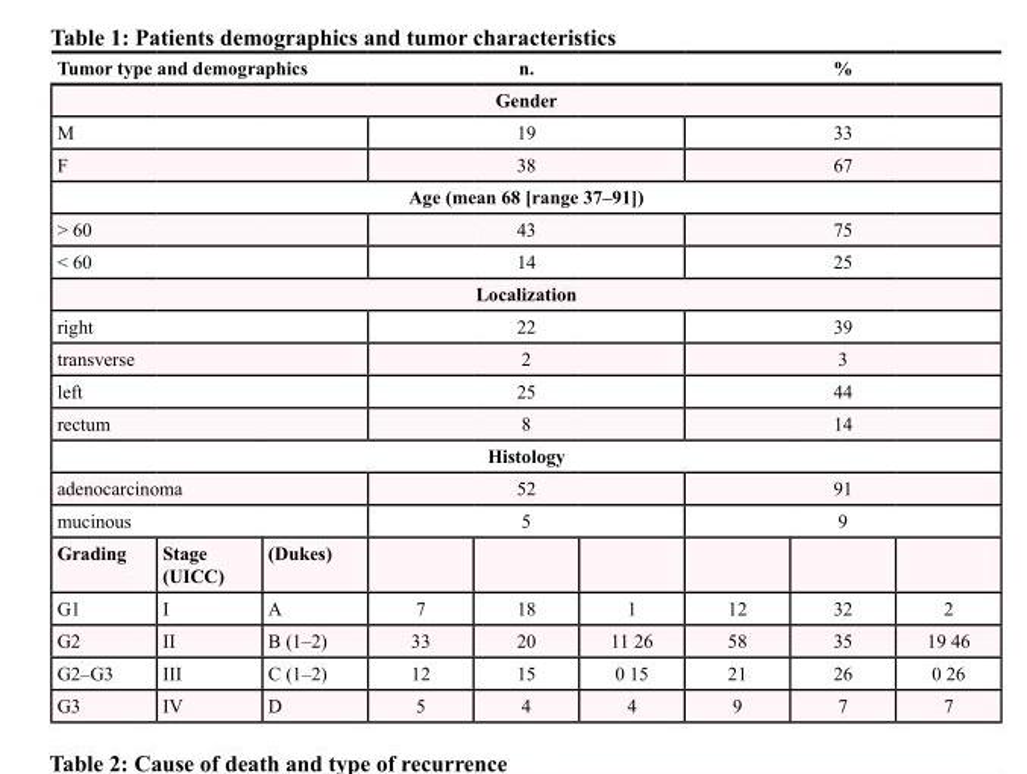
<table><thead><tr><td colspan="3">Tumor type and demographics</td><td colspan="3">n.</td><td colspan="3">%</td></tr></thead><tbody><tr><td colspan="9">Gender</td></tr><tr><td colspan="3">M</td><td colspan="3">19</td><td colspan="3">33</td></tr><tr><td colspan="3">F</td><td colspan="3">38</td><td colspan="3">67</td></tr><tr><td colspan="9">Age (mean 68 [range 37–91])</td></tr><tr><td colspan="3">&gt; 60</td><td colspan="3">43</td><td colspan="3">75</td></tr><tr><td colspan="3">&lt; 60</td><td colspan="3">14</td><td colspan="3">25</td></tr><tr><td colspan="9">Localization</td></tr><tr><td colspan="3">right</td><td colspan="3">22</td><td colspan="3">39</td></tr><tr><td colspan="3">transverse</td><td colspan="3">2</td><td colspan="3">3</td></tr><tr><td colspan="3">left</td><td colspan="3">25</td><td colspan="3">44</td></tr><tr><td colspan="3">rectum</td><td colspan="3">8</td><td colspan="3">14</td></tr><tr><td colspan="9">Histology</td></tr><tr><td colspan="3">adenocarcinoma</td><td colspan="3">52</td><td colspan="3">91</td></tr><tr><td colspan="3">mucinous</td><td colspan="3">5</td><td colspan="3">9</td></tr><tr><td>Grading</td><td>Stage (UICC)</td><td>(Dukes)</td><td></td><td></td><td></td><td></td><td></td><td></td></tr><tr><td>G1</td><td>I</td><td>A</td><td>7</td><td>18</td><td>1</td><td>12</td><td>32</td><td>2</td></tr><tr><td>G2</td><td>II</td><td>B (1–2)</td><td>33</td><td>20</td><td>11 26</td><td>58</td><td>35</td><td>19 46</td></tr><tr><td>G2–G3</td><td>III</td><td>C (1–2)</td><td>12</td><td>15</td><td>0 15</td><td>21</td><td>26</td><td>0 26</td></tr><tr><td>G3</td><td>IV</td><td>D</td><td>5</td><td>4</td><td>4</td><td>9</td><td>7</td><td>7</td></tr></tbody></table>